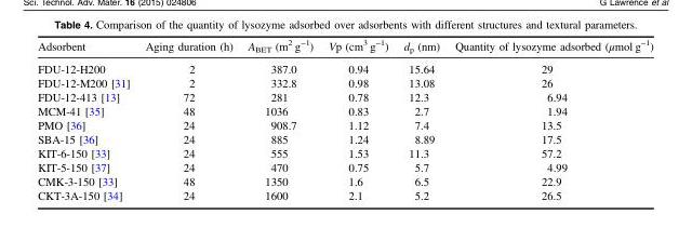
<table><thead><tr><td>Adsorbent</td><td>Aging duration (h)</td><td>A<sub>BET</sub> (m<sup>2</sup> g<sup>−1</sup>)</td><td>Vp (cm<sup>3</sup> g<sup>−1</sup>)</td><td>d<sub>p</sub> (nm)</td><td>Quantity of lysozyme adsorbed (μmol g<sup>−1</sup>)</td></tr></thead><tbody><tr><td>FDU-12-H200</td><td>2</td><td>387.0</td><td>0.94</td><td>15.64</td><td>29</td></tr><tr><td>FDU-12-M200 [31]</td><td>2</td><td>332.8</td><td>0.98</td><td>13.08</td><td>26</td></tr><tr><td>FDU-12-413 [13]</td><td>72</td><td>281</td><td>0.78</td><td>12.3</td><td>6.94</td></tr><tr><td>MCM-41 [35]</td><td>48</td><td>1036</td><td>0.83</td><td>2.7</td><td>1.94</td></tr><tr><td>PMO [36]</td><td>24</td><td>908.7</td><td>1.12</td><td>7.4</td><td>13.5</td></tr><tr><td>SBA-15 [36]</td><td>24</td><td>885</td><td>1.24</td><td>8.89</td><td>17.5</td></tr><tr><td>KIT-6-150 [33]</td><td>24</td><td>555</td><td>1.53</td><td>11.3</td><td>57.2</td></tr><tr><td>KIT-5-150 [37]</td><td>24</td><td>470</td><td>0.75</td><td>5.7</td><td>4.99</td></tr><tr><td>CMK-3-150 [33]</td><td>48</td><td>1350</td><td>1.6</td><td>6.5</td><td>22.9</td></tr><tr><td>CKT-3A-150 [34]</td><td>24</td><td>1600</td><td>2.1</td><td>5.2</td><td>26.5</td></tr></tbody></table>